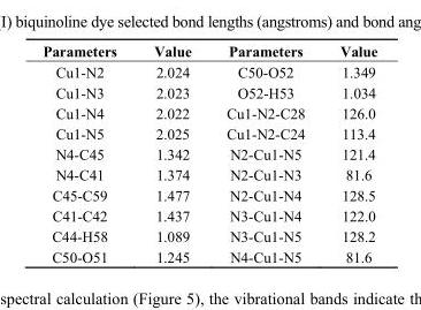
<table><thead><tr><td>Parameters</td><td>Value</td><td>Parameters</td><td>Value</td></tr></thead><tbody><tr><td>Cu1-N2</td><td>2.024</td><td>C50-O52</td><td>1.349</td></tr><tr><td>Cu1-N3</td><td>2.023</td><td>O52-H53</td><td>1.034</td></tr><tr><td>Cu1-N4</td><td>2.022</td><td>Cu1-N2-C28</td><td>126.0</td></tr><tr><td>Cu1-N5</td><td>2.025</td><td>Cu1-N2-C24</td><td>113.4</td></tr><tr><td>N4-C45</td><td>1.342</td><td>N2-Cu1-N5</td><td>121.4</td></tr><tr><td>N4-C41</td><td>1.374</td><td>N2-Cu1-N3</td><td>81.6</td></tr><tr><td>C45-C59</td><td>1.477</td><td>N2-Cu1-N4</td><td>128.5</td></tr><tr><td>C41-C42</td><td>1.437</td><td>N3-Cu1-N4</td><td>122.0</td></tr><tr><td>C44-H58</td><td>1.089</td><td>N3-Cu1-N5</td><td>128.2</td></tr><tr><td>C50-O51</td><td>1.245</td><td>N4-Cu1-N5</td><td>81.6</td></tr></tbody></table>